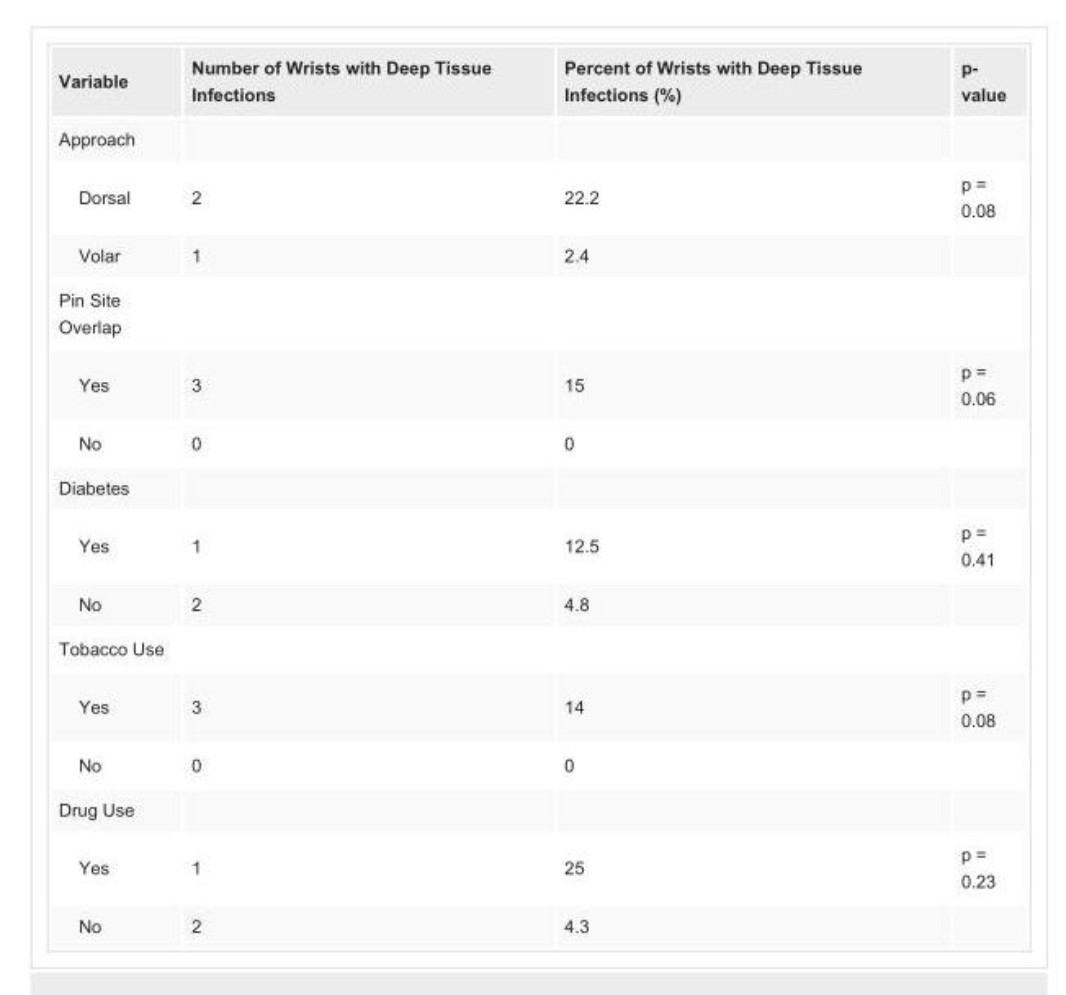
<table><tbody><tr><td>Variable</td><td>Number of Wrists with Deep Tissue Infections</td><td>Percent of Wrists with Deep Tissue Infections (%)</td><td>p- value</td></tr><tr><td colspan="4">Approach</td></tr><tr><td>Dorsal</td><td>2</td><td>22.2</td><td>p = 0.08</td></tr><tr><td>Volar</td><td>1</td><td>2.4</td><td></td></tr><tr><td colspan="4">Pin Site Overlap</td></tr><tr><td>Yes</td><td>3</td><td>15</td><td>p = 0.06</td></tr><tr><td>No</td><td>0</td><td>0</td><td></td></tr><tr><td colspan="4">Diabetes</td></tr><tr><td>Yes</td><td>1</td><td>12.5</td><td>p = 0.41</td></tr><tr><td>No</td><td>2</td><td>4.8</td><td></td></tr><tr><td colspan="4">Tobacco Use</td></tr><tr><td>Yes</td><td>3</td><td>14</td><td>p = 0.08</td></tr><tr><td>No</td><td>0</td><td>0</td><td></td></tr><tr><td colspan="4">Drug Use</td></tr><tr><td>Yes</td><td>1</td><td>25</td><td>p = 0.23</td></tr><tr><td>No</td><td>2</td><td>4.3</td><td></td></tr></tbody></table>